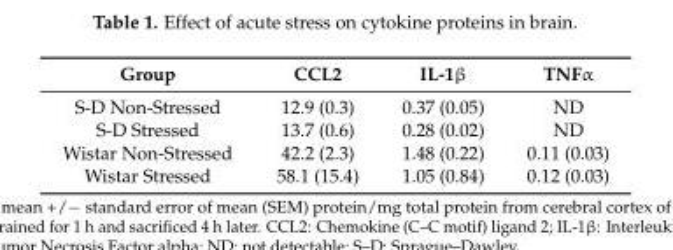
<table><thead><tr><td>Group</td><td>CCL2</td><td>IL-1β</td><td>TNFα</td></tr></thead><tbody><tr><td>S-D Non-Stressed</td><td>12.9 (0.3)</td><td>0.37 (0.05)</td><td>ND</td></tr><tr><td>S-D Stressed</td><td>13.7 (0.6)</td><td>0.28 (0.02)</td><td>ND</td></tr><tr><td>Wistar Non-Stressed</td><td>42.2 (2.3)</td><td>1.48 (0.22)</td><td>0.11 (0.03)</td></tr><tr><td>Wistar Stressed</td><td>58.1 (15.4)</td><td>1.05 (0.84)</td><td>0.12 (0.03)</td></tr></tbody></table>